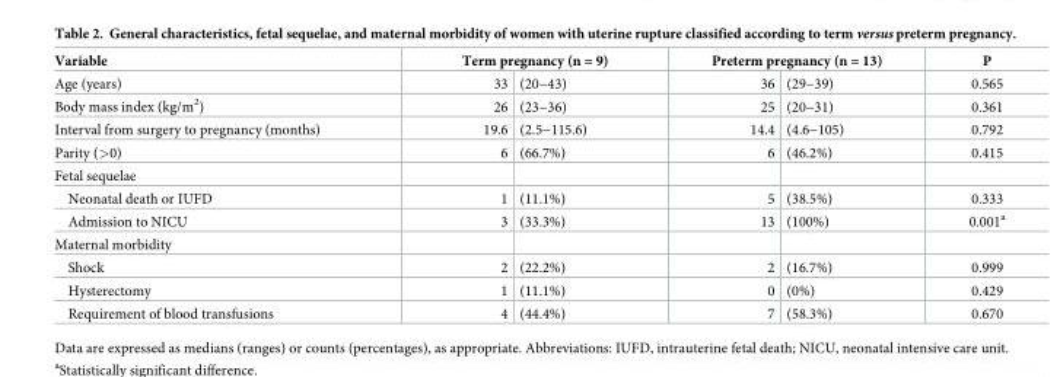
<table><thead><tr><td rowspan="2">Variable Age (years)</td><td colspan="2">Term pregnancy (n = 9)</td><td colspan="2">Preterm pregnancy (n = 13)</td><td rowspan="2">P 0.565</td></tr><tr><td>33</td><td>(20−43)</td><td>36</td><td>(29−39)</td></tr></thead><tbody><tr><td>Body mass index (kg/m<sup>2</sup>)</td><td>26</td><td>(23−36)</td><td>25</td><td>(20−31)</td><td>0.361</td></tr><tr><td>Interval from surgery to pregnancy (months)</td><td>19.6</td><td>(2.5−115.6)</td><td>14.4</td><td>(4.6−105)</td><td>0.792</td></tr><tr><td>Parity (&gt;0)</td><td>6</td><td>(66.7%)</td><td>6</td><td>(46.2%)</td><td>0.415</td></tr><tr><td colspan="6">Fetal sequelae</td></tr><tr><td>Neonatal death or IUFD</td><td>1</td><td>(11.1%)</td><td>5</td><td>(38.5%)</td><td>0.333</td></tr><tr><td>Admission to NICU</td><td>3</td><td>(33.3%)</td><td>13</td><td>(100%)</td><td>0.001<sup>a</sup></td></tr><tr><td colspan="6">Maternal morbidity</td></tr><tr><td>Shock</td><td>2</td><td>(22.2%)</td><td>2</td><td>(16.7%)</td><td>0.999</td></tr><tr><td>Hysterectomy</td><td>1</td><td>(11.1%)</td><td>0</td><td>(0%)</td><td>0.429</td></tr><tr><td>Requirement of blood transfusions</td><td>4</td><td>(44.4%)</td><td>7</td><td>(58.3%)</td><td>0.670</td></tr></tbody></table>